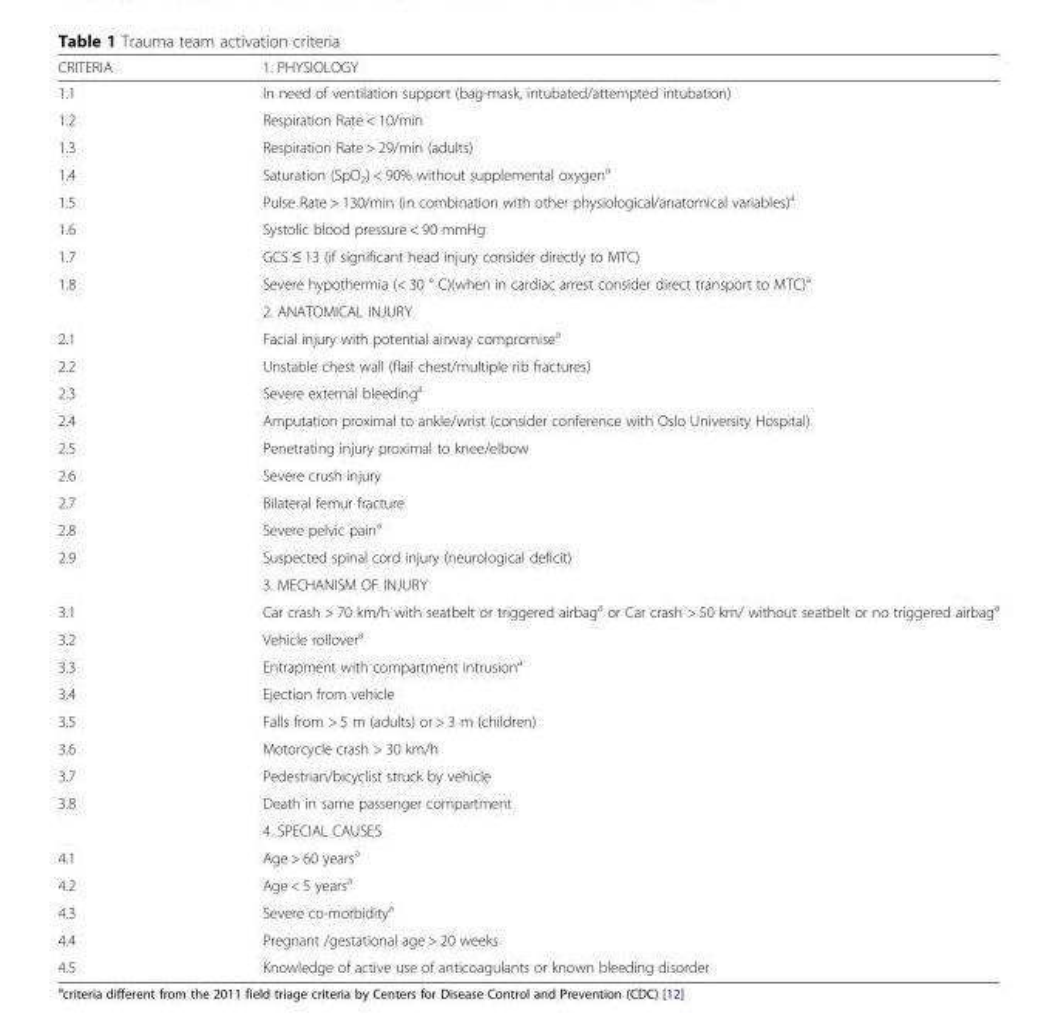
<table><thead><tr><td>CRITERIA</td><td>1. PHYSIOLOGY</td></tr></thead><tbody><tr><td>1.1</td><td>In need of ventilation support (bag-mask, intubated/attempted intubation)</td></tr><tr><td>1.2</td><td>Respiration Rate &lt; 10/min</td></tr><tr><td>1.3</td><td>Respiration Rate &gt; 29/min (adults)</td></tr><tr><td>1.4</td><td>Saturation (SpO<sub>2</sub>) &lt; 90% without supplemental oxygen<sup>a</sup></td></tr><tr><td>1.5</td><td>Pulse Rate &gt; 130/min (in combination with other physiological/anatomical variables)<sup>a</sup></td></tr><tr><td>1.6</td><td>Systolic blood pressure &lt; 90 mmHg</td></tr><tr><td>1.7</td><td>GCS ≤ 13 (if significant head injury consider directly to MTC)</td></tr><tr><td rowspan="2">1.8</td><td>Severe hypothermia (&lt; 30 ° C)(when in cardiac arrest consider direct transport to MTC)<sup>a</sup></td></tr><tr><td>2. ANATOMICAL INJURY</td></tr><tr><td>2.1</td><td>Facial injury with potential airway compromise<sup>a</sup></td></tr><tr><td>2.2</td><td>Unstable chest wall (flail chest/multiple rib fractures)</td></tr><tr><td>2.3</td><td>Severe external bleeding<sup>a</sup></td></tr><tr><td>2.4</td><td>Amputation proximal to ankle/wrist (consider conference with Oslo University Hospital)</td></tr><tr><td>2.5</td><td>Penetrating injury proximal to knee/elbow</td></tr><tr><td>2.6</td><td>Severe crush injury</td></tr><tr><td>2.7</td><td>Bilateral femur fracture</td></tr><tr><td>2.8</td><td>Severe pelvic pain<sup>a</sup></td></tr><tr><td rowspan="2">2.9</td><td>Suspected spinal cord injury (neurological deficit)</td></tr><tr><td>3. MECHANISM OF INJURY</td></tr><tr><td>3.1</td><td>Car crash &gt; 70 km/h with seatbelt or triggered airbag<sup>a</sup> or Car crash &gt; 50 km/ without seatbelt or no triggered airbag<sup>a</sup></td></tr><tr><td>3.2</td><td>Vehicle rollover<sup>a</sup></td></tr><tr><td>3.3</td><td>Entrapment with compartment intrusion<sup>a</sup></td></tr><tr><td>3.4</td><td>Ejection from vehicle</td></tr><tr><td>3.5</td><td>Falls from &gt; 5 m (adults) or &gt; 3 m (children)</td></tr><tr><td>3.6</td><td>Motorcycle crash &gt; 30 km/h</td></tr><tr><td>3.7</td><td>Pedestrian/bicyclist struck by vehicle</td></tr><tr><td rowspan="2">3.8</td><td>Death in same passenger compartment</td></tr><tr><td>4. SPECIAL CAUSES</td></tr><tr><td>4.1</td><td>Age &gt; 60 years<sup>a</sup></td></tr><tr><td>4.2</td><td>Age &lt; 5 years<sup>a</sup></td></tr><tr><td>4.3</td><td>Severe co-morbidity<sup>a</sup></td></tr><tr><td>4.4</td><td>Pregnant /gestational age &gt; 20 weeks</td></tr><tr><td>4.5</td><td>Knowledge of active use of anticoagulants or known bleeding disorder</td></tr></tbody></table>